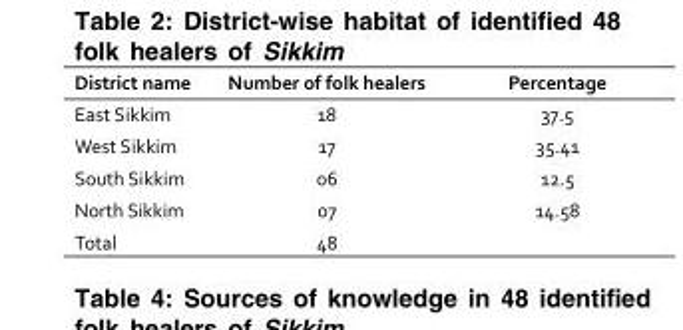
<table><thead><tr><td>District name</td><td>Number of folk healers</td><td>Percentage</td></tr></thead><tbody><tr><td>East Sikkim</td><td>18</td><td>37.5</td></tr><tr><td>West Sikkim</td><td>17</td><td>35.41</td></tr><tr><td>South Sikkim</td><td>06</td><td>12.5</td></tr><tr><td>North Sikkim</td><td>07</td><td>14.58</td></tr><tr><td>Total</td><td>48</td><td></td></tr></tbody></table>